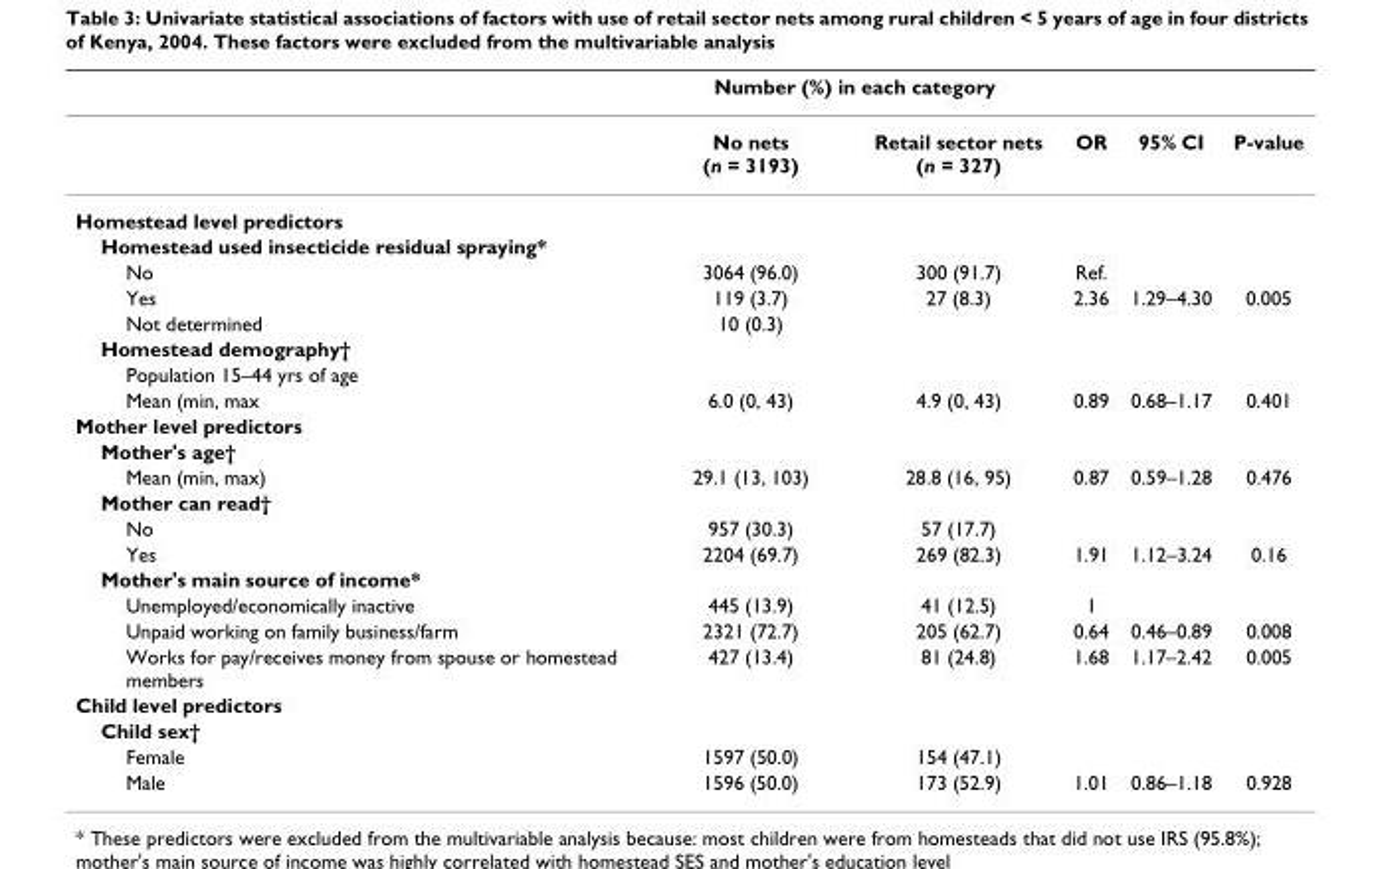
<table><thead><tr><td rowspan="2"></td><td colspan="2">Number (%) in each category</td><td rowspan="2">OR</td><td rowspan="2">95% CI</td><td rowspan="2">P-value</td></tr><tr><td>No nets (n = 3193)</td><td>Retail sector nets (n = 327)</td></tr></thead><tbody><tr><td colspan="6">Homestead level predictors</td></tr><tr><td colspan="6">Homestead used insecticide residual spraying*</td></tr><tr><td>No</td><td>3064 (96.0)</td><td>300 (91.7)</td><td>Ref.</td><td></td><td></td></tr><tr><td>Yes</td><td>119 (3.7)</td><td>27 (8.3)</td><td>2.36</td><td>1.29–4.30</td><td>0.005</td></tr><tr><td>Not determined</td><td>10 (0.3)</td><td></td><td></td><td></td><td></td></tr><tr><td colspan="6">Homestead demography†</td></tr><tr><td colspan="6">Population 15–44 yrs of age</td></tr><tr><td>Mean (min, max</td><td>6.0 (0, 43)</td><td>4.9 (0, 43)</td><td>0.89</td><td>0.68–1.17</td><td>0.401</td></tr><tr><td colspan="6">Mother level predictors</td></tr><tr><td colspan="6">Mother&#x27;s age†</td></tr><tr><td>Mean (min, max)</td><td>29.1 (13, 103)</td><td>28.8 (16, 95)</td><td>0.87</td><td>0.59–1.28</td><td>0.476</td></tr><tr><td colspan="6">Mother can read†</td></tr><tr><td>No</td><td>957 (30.3)</td><td>57 (17.7)</td><td></td><td></td><td></td></tr><tr><td>Yes</td><td>2204 (69.7)</td><td>269 (82.3)</td><td>1.91</td><td>1.12–3.24</td><td>0.16</td></tr><tr><td colspan="6">Mother&#x27;s main source of income*</td></tr><tr><td>Unemployed/economically inactive</td><td>445 (13.9)</td><td>41 (12.5)</td><td>1</td><td></td><td></td></tr><tr><td>Unpaid working on family business/farm</td><td>2321 (72.7)</td><td>205 (62.7)</td><td>0.64</td><td>0.46–0.89</td><td>0.008</td></tr><tr><td>Works for pay/receives money from spouse or homestead members</td><td>427 (13.4)</td><td>81 (24.8)</td><td>1.68</td><td>1.17–2.42</td><td>0.005</td></tr><tr><td colspan="6">Child level predictors</td></tr><tr><td colspan="6">Child sex†</td></tr><tr><td>Female</td><td>1597 (50.0)</td><td>154 (47.1)</td><td></td><td></td><td></td></tr><tr><td>Male</td><td>1596 (50.0)</td><td>173 (52.9)</td><td>1.01</td><td>0.86–1.18</td><td>0.928</td></tr></tbody></table>